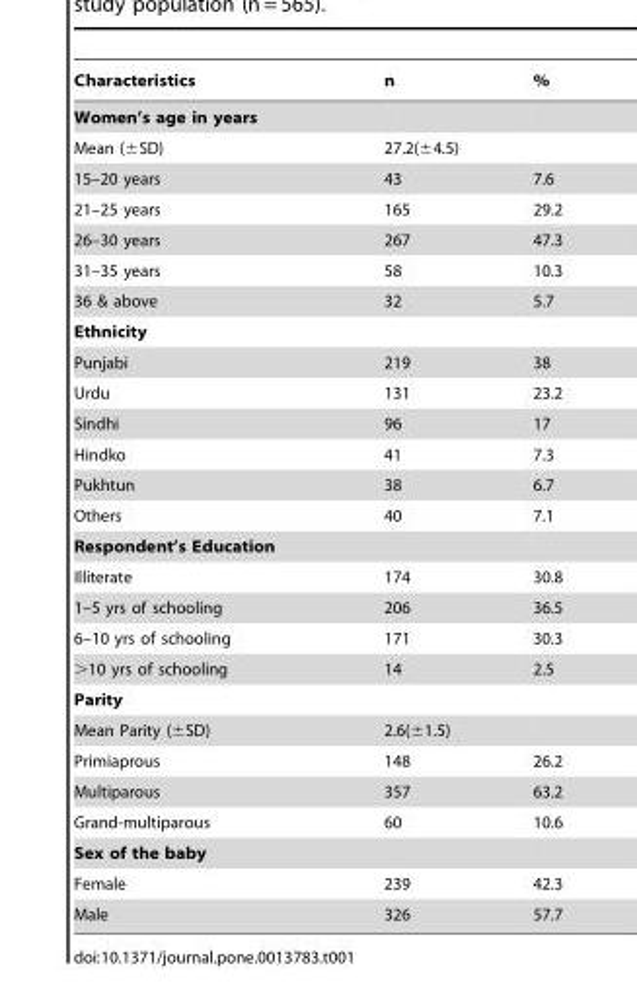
<table><thead><tr><td>Characteristics</td><td>n</td><td>%</td></tr></thead><tbody><tr><td colspan="3">Women’s age in years</td></tr><tr><td>Mean (±SD)</td><td>27.2(±4.5)</td><td></td></tr><tr><td>15–20 years</td><td>43</td><td>7.6</td></tr><tr><td>21–25 years</td><td>165</td><td>29.2</td></tr><tr><td>26–30 years</td><td>267</td><td>47.3</td></tr><tr><td>31–35 years</td><td>58</td><td>10.3</td></tr><tr><td>36 &amp; above</td><td>32</td><td>5.7</td></tr><tr><td colspan="3">Ethnicity</td></tr><tr><td>Punjabi</td><td>219</td><td>38</td></tr><tr><td>Urdu</td><td>131</td><td>23.2</td></tr><tr><td>Sindhi</td><td>96</td><td>17</td></tr><tr><td>Hindko</td><td>41</td><td>7.3</td></tr><tr><td>Pukhtun</td><td>38</td><td>6.7</td></tr><tr><td>Others</td><td>40</td><td>7.1</td></tr><tr><td colspan="3">Respondent’s Education</td></tr><tr><td>Illiterate</td><td>174</td><td>30.8</td></tr><tr><td>1–5 yrs of schooling</td><td>206</td><td>36.5</td></tr><tr><td>6–10 yrs of schooling</td><td>171</td><td>30.3</td></tr><tr><td>&gt;10 yrs of schooling</td><td>14</td><td>2.5</td></tr><tr><td colspan="3">Parity</td></tr><tr><td>Mean Parity (±SD)</td><td>2.6(±1.5)</td><td></td></tr><tr><td>Primiaprous</td><td>148</td><td>26.2</td></tr><tr><td>Multiparous</td><td>357</td><td>63.2</td></tr><tr><td>Grand-multiparous</td><td>60</td><td>10.6</td></tr><tr><td colspan="3">Sex of the baby</td></tr><tr><td>Female</td><td>239</td><td>42.3</td></tr><tr><td>Male</td><td>326</td><td>57.7</td></tr></tbody></table>